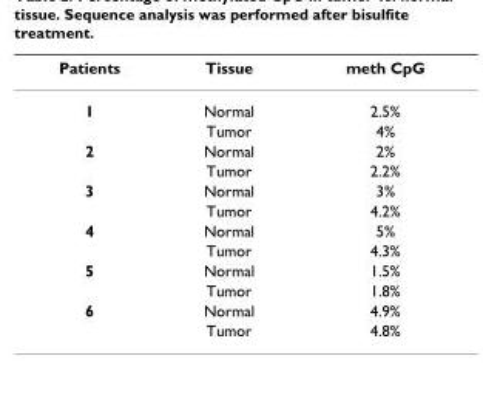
<table><thead><tr><td>Patients</td><td>Tissue</td><td>meth CpG</td></tr></thead><tbody><tr><td rowspan="2">1</td><td>Normal</td><td>2.5%</td></tr><tr><td>Tumor</td><td>4%</td></tr><tr><td rowspan="2">2</td><td>Normal</td><td>2%</td></tr><tr><td>Tumor</td><td>2.2%</td></tr><tr><td rowspan="2">3</td><td>Normal</td><td>3%</td></tr><tr><td>Tumor</td><td>4.2%</td></tr><tr><td rowspan="2">4</td><td>Normal</td><td>5%</td></tr><tr><td>Tumor</td><td>4.3%</td></tr><tr><td rowspan="2">5</td><td>Normal</td><td>1.5%</td></tr><tr><td>Tumor</td><td>1.8%</td></tr><tr><td rowspan="2">6</td><td>Normal</td><td>4.9%</td></tr><tr><td>Tumor</td><td>4.8%</td></tr></tbody></table>